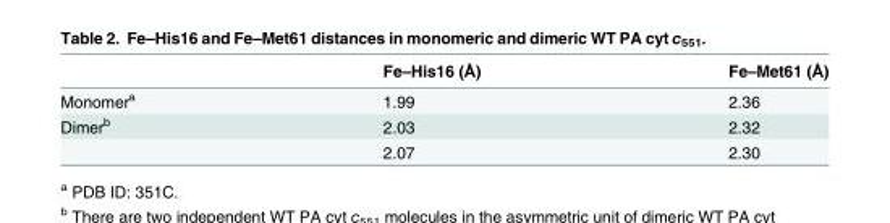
<table><thead><tr><td></td><td>Fe–His16 (Å)</td><td>Fe–Met61 (Å)</td></tr></thead><tbody><tr><td>Monomer<sup>a</sup></td><td>1.99</td><td>2.36</td></tr><tr><td rowspan="2">Dimer<sup>b</sup></td><td>2.03</td><td>2.32</td></tr><tr><td>2.07</td><td>2.30</td></tr></tbody></table>